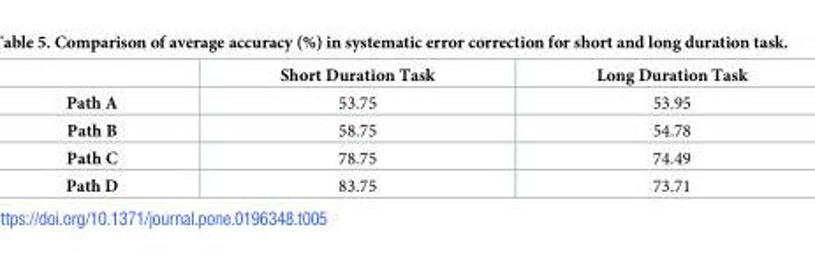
<table><thead><tr><td></td><td>Short Duration Task</td><td>Long Duration Task</td></tr></thead><tbody><tr><td>Path A</td><td>53.75</td><td>53.95</td></tr><tr><td>Path B</td><td>58.75</td><td>54.78</td></tr><tr><td>Path C</td><td>78.75</td><td>74.49</td></tr><tr><td>Path D</td><td>83.75</td><td>73.71</td></tr></tbody></table>